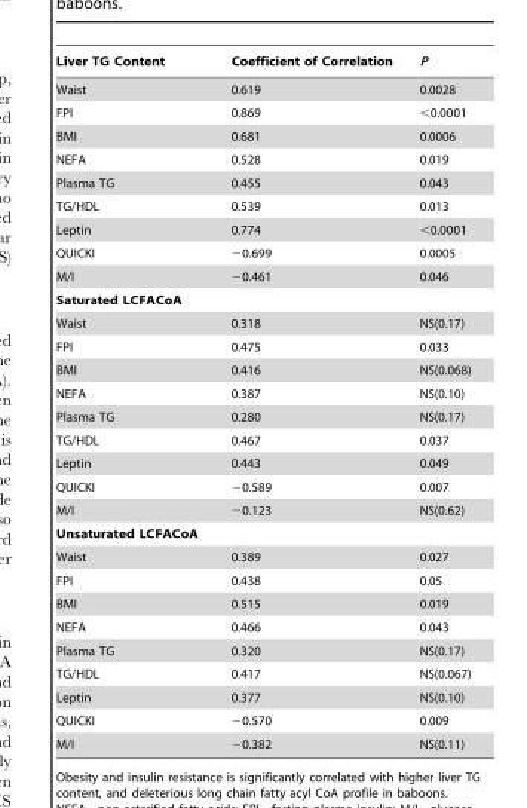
<table><thead><tr><td>Liver TG Content</td><td>Coefficient of Correlation</td><td>P</td></tr></thead><tbody><tr><td>Waist</td><td>0.619</td><td>0.0028</td></tr><tr><td>FPI</td><td>0.869</td><td>&lt;0.0001</td></tr><tr><td>BMI</td><td>0.681</td><td>0.0006</td></tr><tr><td>NEFA</td><td>0.528</td><td>0.019</td></tr><tr><td>Plasma TG</td><td>0.455</td><td>0.043</td></tr><tr><td>TG/HDL</td><td>0.539</td><td>0.013</td></tr><tr><td>Leptin</td><td>0.774</td><td>&lt;0.0001</td></tr><tr><td>QUICKI</td><td>−0.699</td><td>0.0005</td></tr><tr><td>M/I</td><td>−0.461</td><td>0.046</td></tr><tr><td colspan="3">Saturated LCFACoA</td></tr><tr><td>Waist</td><td>0.318</td><td>NS(0.17)</td></tr><tr><td>FPI</td><td>0.475</td><td>0.033</td></tr><tr><td>BMI</td><td>0.416</td><td>NS(0.068)</td></tr><tr><td>NEFA</td><td>0.387</td><td>NS(0.10)</td></tr><tr><td>Plasma TG</td><td>0.280</td><td>NS(0.17)</td></tr><tr><td>TG/HDL</td><td>0.467</td><td>0.037</td></tr><tr><td>Leptin</td><td>0.443</td><td>0.049</td></tr><tr><td>QUICKI</td><td>−0.589</td><td>0.007</td></tr><tr><td>M/I</td><td>−0.123</td><td>NS(0.62)</td></tr><tr><td colspan="3">Unsaturated LCFACoA</td></tr><tr><td>Waist</td><td>0.389</td><td>0.027</td></tr><tr><td>FPI</td><td>0.438</td><td>0.05</td></tr><tr><td>BMI</td><td>0.515</td><td>0.019</td></tr><tr><td>NEFA</td><td>0.466</td><td>0.043</td></tr><tr><td>Plasma TG</td><td>0.320</td><td>NS(0.17)</td></tr><tr><td>TG/HDL</td><td>0.417</td><td>NS(0.067)</td></tr><tr><td>Leptin</td><td>0.377</td><td>NS(0.10)</td></tr><tr><td>QUICKI</td><td>−0.570</td><td>0.009</td></tr><tr><td>M/I</td><td>−0.382</td><td>NS(0.11)</td></tr></tbody></table>